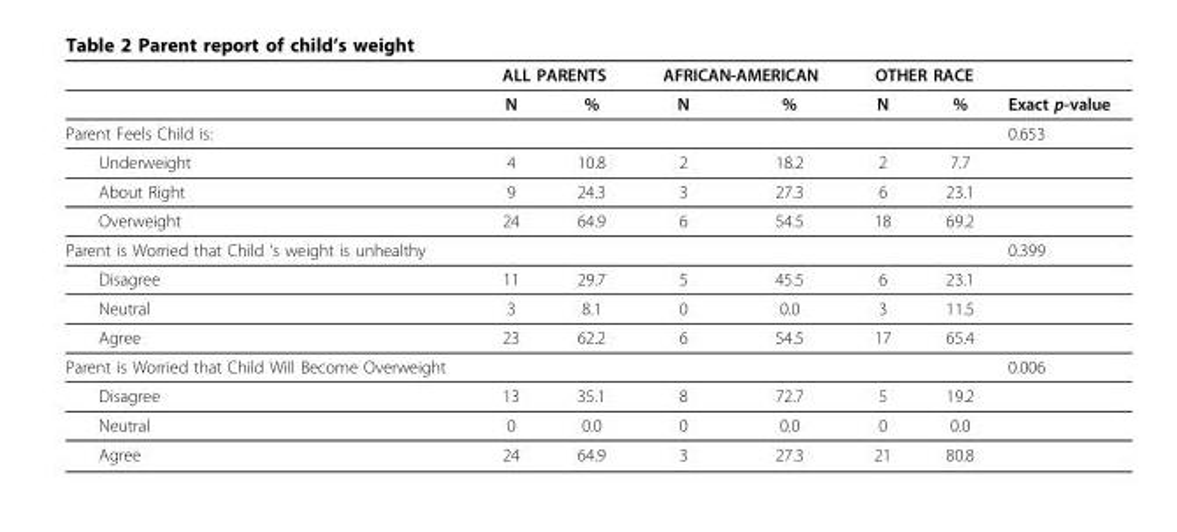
<table><thead><tr><td rowspan="2"></td><td colspan="2">ALL PARENTS</td><td colspan="2">AFRICAN-AMERICAN</td><td colspan="2">OTHER RACE</td><td rowspan="2">Exact p-value</td></tr><tr><td>N</td><td>%</td><td>N</td><td>%</td><td>N</td><td>%</td></tr></thead><tbody><tr><td>Parent Feels Child is:</td><td></td><td></td><td></td><td></td><td></td><td></td><td>0.653</td></tr><tr><td>Underweight</td><td>4</td><td>10.8</td><td>2</td><td>18.2</td><td>2</td><td>7.7</td><td></td></tr><tr><td>About Right</td><td>9</td><td>24.3</td><td>3</td><td>27.3</td><td>6</td><td>23.1</td><td></td></tr><tr><td>Overweight</td><td>24</td><td>64.9</td><td>6</td><td>54.5</td><td>18</td><td>69.2</td><td></td></tr><tr><td>Parent is Worried that Child ‘s weight is unhealthy</td><td></td><td></td><td></td><td></td><td></td><td></td><td>0.399</td></tr><tr><td>Disagree</td><td>11</td><td>29.7</td><td>5</td><td>45.5</td><td>6</td><td>23.1</td><td></td></tr><tr><td>Neutral</td><td>3</td><td>8.1</td><td>0</td><td>0.0</td><td>3</td><td>11.5</td><td></td></tr><tr><td>Agree</td><td>23</td><td>62.2</td><td>6</td><td>54.5</td><td>17</td><td>65.4</td><td></td></tr><tr><td>Parent is Worried that Child Will Become Overweight</td><td></td><td></td><td></td><td></td><td></td><td></td><td>0.006</td></tr><tr><td>Disagree</td><td>13</td><td>35.1</td><td>8</td><td>72.7</td><td>5</td><td>19.2</td><td></td></tr><tr><td>Neutral</td><td>0</td><td>0.0</td><td>0</td><td>0.0</td><td>0</td><td>0.0</td><td></td></tr><tr><td>Agree</td><td>24</td><td>64.9</td><td>3</td><td>27.3</td><td>21</td><td>80.8</td><td></td></tr></tbody></table>